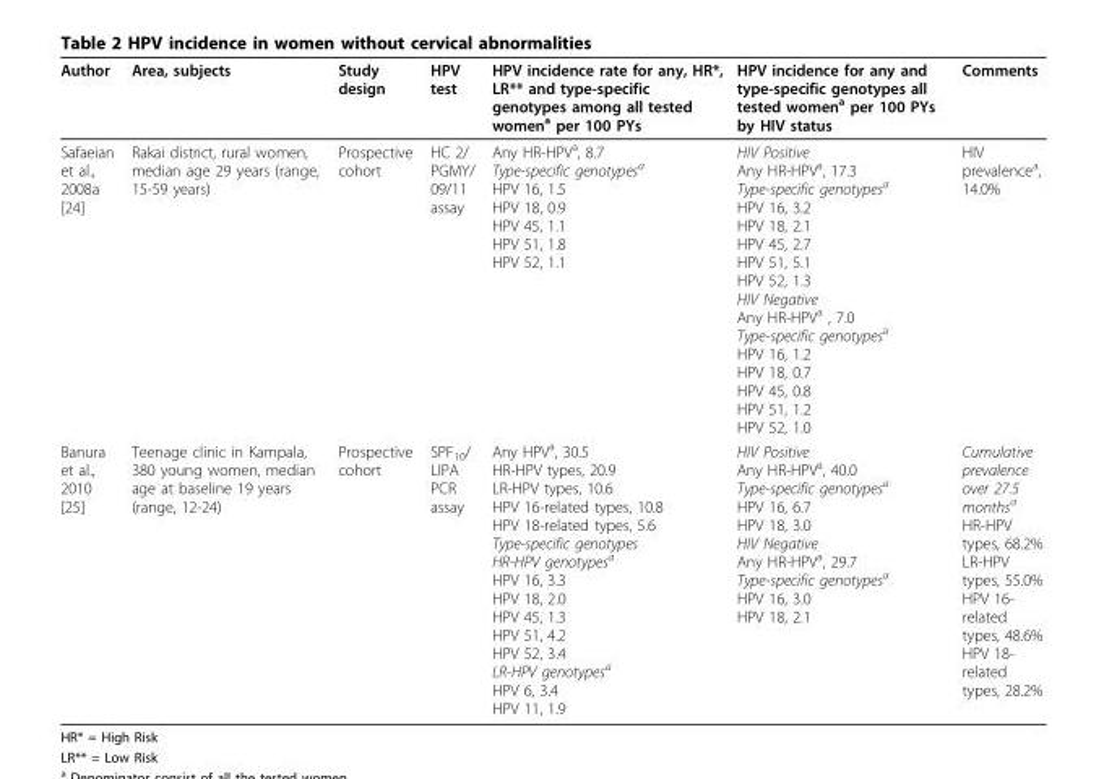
<table><thead><tr><td>Author</td><td>Area, subjects</td><td>Study design</td><td>HPV test</td><td>HPV incidence rate for any, HR*, LR** and type-specific genotypes among all tested women<sup>a</sup> per 100 PYs</td><td>HPV incidence for any and type-specific genotypes all tested women<sup>a</sup> per 100 PYs by HIV status</td><td>Comments</td></tr></thead><tbody><tr><td>Safaeian et al., 2008a [24]</td><td>Rakai district, rural women, median age 29 years (range, 15-59 years)</td><td>Prospective cohort</td><td>HC 2/ PGMY/ 09/11 assay</td><td>Any HR-HPV<sup>a</sup>, 8.7 Type-specific genotypes<sup>a</sup> HPV 16, 1.5 HPV 18, 0.9 HPV 45, 1.1 HPV 51, 1.8 HPV 52, 1.1</td><td>HIV Positive Any HR-HPV<sup>a</sup>, 17.3 Type-specific genotypes<sup>a</sup> HPV 16, 3.2 HPV 18, 2.1 HPV 45, 2.7 HPV 51, 5.1 HPV 52, 1.3 HIV Negative Any HR-HPV<sup>a</sup> , 7.0 Type-specific genotypes<sup>a</sup> HPV 16, 1.2 HPV 18, 0.7 HPV 45, 0.8 HPV 51, 1.2 HPV 52, 1.0</td><td>HIV prevalence<sup>a</sup>, 14.0%</td></tr><tr><td>Banura et al., 2010 [25]</td><td>Teenage clinic in Kampala, 380 young women, median age at baseline 19 years (range, 12-24)</td><td>Prospective cohort</td><td>SPF<sub>10</sub>/ LIPA PCR assay</td><td>Any HPV<sup>a</sup>, 30.5 HR-HPV types, 20.9 LR-HPV types, 10.6 HPV 16-related types, 10.8 HPV 18-related types, 5.6 Type-specific genotypes HR-HPV genotypes<sup>a</sup> HPV 16, 3.3 HPV 18, 2.0 HPV 45, 1.3 HPV 51, 4.2 HPV 52, 3.4 LR-HPV genotypes<sup>a</sup> HPV 6, 3.4 HPV 11, 1.9</td><td>HIV Positive Any HR-HPV<sup>a</sup>, 40.0 Type-specific genotypes<sup>a</sup> HPV 16, 6.7 HPV 18, 3.0 HIV Negative Any HR-HPV<sup>a</sup>, 29.7 Type-specific genotypes<sup>a</sup> HPV 16, 3.0 HPV 18, 2.1</td><td>Cumulative prevalence over 27.5 months<sup>a</sup> HR-HPV types, 68.2% LR-HPV types, 55.0% HPV 16- related types, 48.6% HPV 18- related types, 28.2%</td></tr></tbody></table>